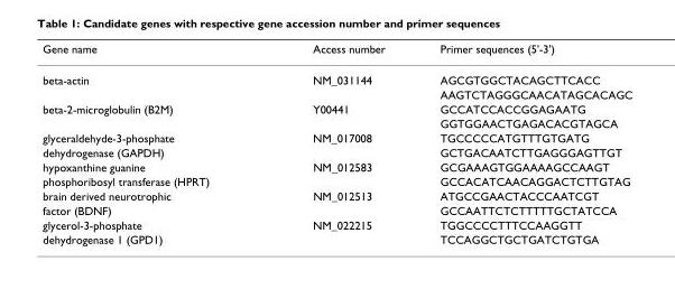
<table><thead><tr><td>Gene name</td><td>Access number</td><td>Primer sequences (5&#x27;-3&#x27;)</td></tr></thead><tbody><tr><td rowspan="2">beta-actin</td><td>NM_031144</td><td>AGCGTGGCTACAGCTTCACC</td></tr><tr><td></td><td>AAGTCTAGGGCAACATAGCACAGC</td></tr><tr><td rowspan="2">beta-2-microglobulin (B2M)</td><td>Y00441</td><td>GCCATCCACCGGAGAATG</td></tr><tr><td></td><td>GGTGGAACTGAGACACGTAGCA</td></tr><tr><td>glyceraldehyde-3-phosphate</td><td>NM_017008</td><td>TGCCCCCATGTTTGTGATG</td></tr><tr><td>dehydrogenase (GAPDH)</td><td></td><td>GCTGACAATCTTGAGGGAGTTGT</td></tr><tr><td>hypoxanthine guanine</td><td>NM_012583</td><td>GCGAAAGTGGAAAAGCCAAGT</td></tr><tr><td>phosphoribosyl transferase (HPRT)</td><td></td><td>GCCACATCAACAGGACTCTTGTAG</td></tr><tr><td>brain derived neurotrophic</td><td>NM_012513</td><td>ATGCCGAACTACCCAATCGT</td></tr><tr><td>factor (BDNF)</td><td></td><td>GCCAATTCTCTTTTTGCTATCCA</td></tr><tr><td>glycerol-3-phosphate</td><td>NM_022215</td><td>TGGCCCCTTTCCAAGGTT</td></tr><tr><td>dehydrogenase 1 (GPD1)</td><td></td><td>TCCAGGCTGCTGATCTGTGA</td></tr></tbody></table>